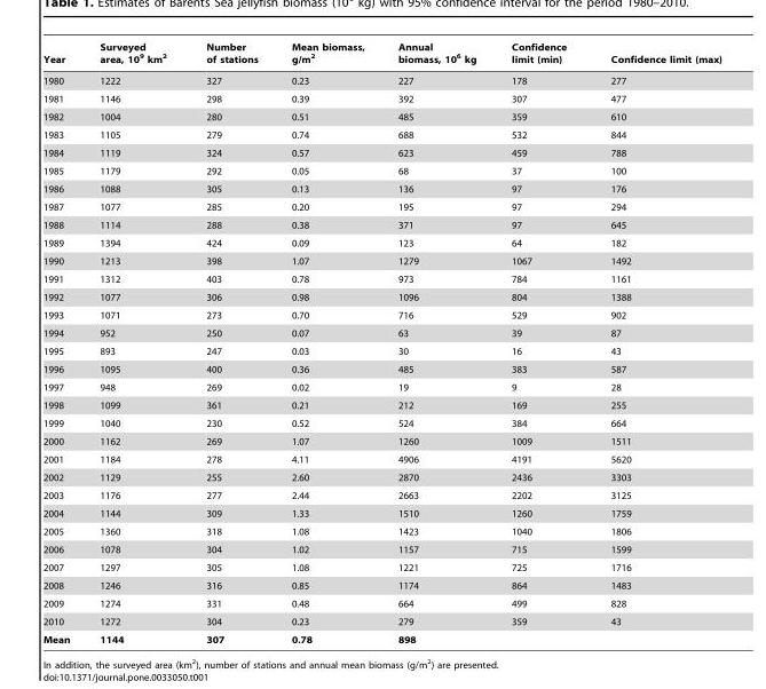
<table><thead><tr><td>Year</td><td>Surveyed area, 10<sup>9</sup> km<sup>2</sup></td><td>Number of stations</td><td>Mean biomass, g/m<sup>2</sup></td><td>Annual biomass, 10<sup>6</sup> kg</td><td>Confidence limit (min)</td><td>Confidence limit (max)</td></tr></thead><tbody><tr><td>1980</td><td>1222</td><td>327</td><td>0.23</td><td>227</td><td>178</td><td>277</td></tr><tr><td>1981</td><td>1146</td><td>298</td><td>0.39</td><td>392</td><td>307</td><td>477</td></tr><tr><td>1982</td><td>1004</td><td>280</td><td>0.51</td><td>485</td><td>359</td><td>610</td></tr><tr><td>1983</td><td>1105</td><td>279</td><td>0.74</td><td>688</td><td>532</td><td>844</td></tr><tr><td>1984</td><td>1119</td><td>324</td><td>0.57</td><td>623</td><td>459</td><td>788</td></tr><tr><td>1985</td><td>1179</td><td>292</td><td>0.05</td><td>68</td><td>37</td><td>100</td></tr><tr><td>1986</td><td>1088</td><td>305</td><td>0.13</td><td>136</td><td>97</td><td>176</td></tr><tr><td>1987</td><td>1077</td><td>285</td><td>0.20</td><td>195</td><td>97</td><td>294</td></tr><tr><td>1988</td><td>1114</td><td>288</td><td>0.38</td><td>371</td><td>97</td><td>645</td></tr><tr><td>1989</td><td>1394</td><td>424</td><td>0.09</td><td>123</td><td>64</td><td>182</td></tr><tr><td>1990</td><td>1213</td><td>398</td><td>1.07</td><td>1279</td><td>1067</td><td>1492</td></tr><tr><td>1991</td><td>1312</td><td>403</td><td>0.78</td><td>973</td><td>784</td><td>1161</td></tr><tr><td>1992</td><td>1077</td><td>306</td><td>0.98</td><td>1096</td><td>804</td><td>1388</td></tr><tr><td>1993</td><td>1071</td><td>273</td><td>0.70</td><td>716</td><td>529</td><td>902</td></tr><tr><td>1994</td><td>952</td><td>250</td><td>0.07</td><td>63</td><td>39</td><td>87</td></tr><tr><td>1995</td><td>893</td><td>247</td><td>0.03</td><td>30</td><td>16</td><td>43</td></tr><tr><td>1996</td><td>1095</td><td>400</td><td>0.36</td><td>485</td><td>383</td><td>587</td></tr><tr><td>1997</td><td>948</td><td>269</td><td>0.02</td><td>19</td><td>9</td><td>28</td></tr><tr><td>1998</td><td>1099</td><td>361</td><td>0.21</td><td>212</td><td>169</td><td>255</td></tr><tr><td>1999</td><td>1040</td><td>230</td><td>0.52</td><td>524</td><td>384</td><td>664</td></tr><tr><td>2000</td><td>1162</td><td>269</td><td>1.07</td><td>1260</td><td>1009</td><td>1511</td></tr><tr><td>2001</td><td>1184</td><td>278</td><td>4.11</td><td>4906</td><td>4191</td><td>5620</td></tr><tr><td>2002</td><td>1129</td><td>255</td><td>2.60</td><td>2870</td><td>2436</td><td>3303</td></tr><tr><td>2003</td><td>1176</td><td>277</td><td>2.44</td><td>2663</td><td>2202</td><td>3125</td></tr><tr><td>2004</td><td>1144</td><td>309</td><td>1.33</td><td>1510</td><td>1260</td><td>1759</td></tr><tr><td>2005</td><td>1360</td><td>318</td><td>1.08</td><td>1423</td><td>1040</td><td>1806</td></tr><tr><td>2006</td><td>1078</td><td>304</td><td>1.02</td><td>1157</td><td>715</td><td>1599</td></tr><tr><td>2007</td><td>1297</td><td>305</td><td>1.08</td><td>1221</td><td>725</td><td>1716</td></tr><tr><td>2008</td><td>1246</td><td>316</td><td>0.85</td><td>1174</td><td>864</td><td>1483</td></tr><tr><td>2009</td><td>1274</td><td>331</td><td>0.48</td><td>664</td><td>499</td><td>828</td></tr><tr><td>2010</td><td>1272</td><td>304</td><td>0.23</td><td>279</td><td>359</td><td>43</td></tr><tr><td>Mean</td><td>1144</td><td>307</td><td>0.78</td><td>898</td><td></td><td></td></tr></tbody></table>